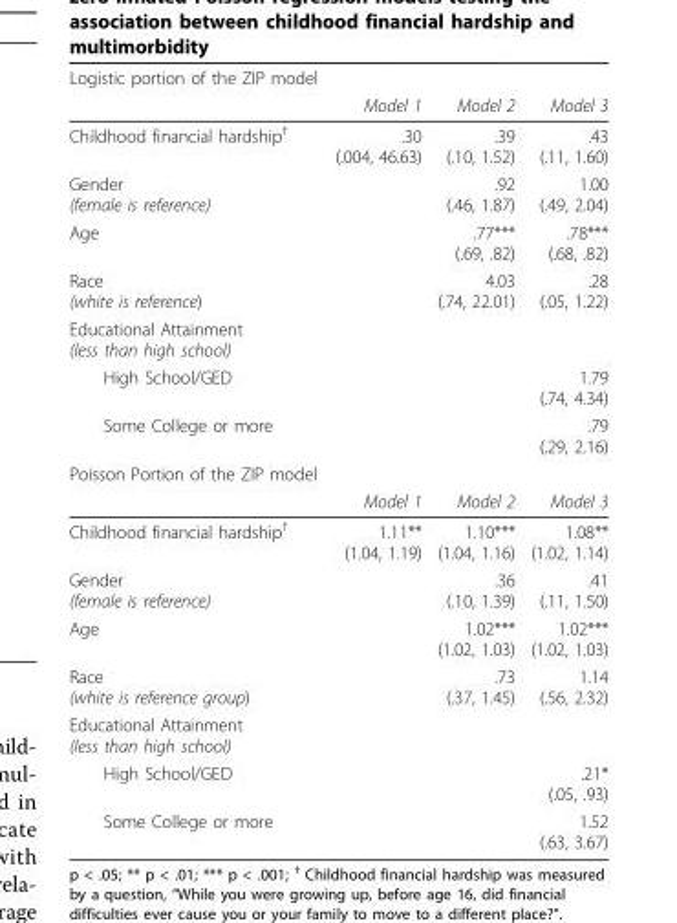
<table><thead><tr><td rowspan="2">Logistic portion of the ZIP model</td><td rowspan="2">Model 1</td><td rowspan="2">Model 2</td><td rowspan="2">Model 3</td></tr><tr></tr></thead><tbody><tr><td>Childhood financial hardship<sup>†</sup></td><td>.30 (.004, 46.63)</td><td>.39 (.10, 1.52)</td><td>.43 (.11, 1.60)</td></tr><tr><td>Gender (female is reference)</td><td></td><td>.92 (.46, 1.87)</td><td>1.00 (.49, 2.04)</td></tr><tr><td>Age</td><td></td><td>.77*** (.69, .82)</td><td>.78*** (.68, .82)</td></tr><tr><td>Race (white is reference)</td><td></td><td>4.03 (.74, 22.01)</td><td>.28 (.05, 1.22)</td></tr><tr><td colspan="4">Educational Attainment (less than high school)</td></tr><tr><td>High School/GED</td><td></td><td></td><td>1.79 (.74, 4.34)</td></tr><tr><td>Some College or more</td><td></td><td></td><td>.79 (.29, 2.16)</td></tr><tr><td colspan="4">Poisson Portion of the ZIP model</td></tr><tr><td></td><td>Model 1</td><td>Model 2</td><td>Model 3</td></tr><tr><td>Childhood financial hardship<sup>†</sup></td><td>1.11** (1.04, 1.19)</td><td>1.10*** (1.04, 1.16)</td><td>1.08** (1.02, 1.14)</td></tr><tr><td>Gender (female is reference)</td><td></td><td>.36 (.10, 1.39)</td><td>.41 (.11, 1.50)</td></tr><tr><td>Age</td><td></td><td>1.02*** (1.02, 1.03)</td><td>1.02*** (1.02, 1.03)</td></tr><tr><td>Race (white is reference group)</td><td></td><td>.73 (.37, 1.45)</td><td>1.14 (.56, 2.32)</td></tr><tr><td colspan="4">Educational Attainment (less than high school)</td></tr><tr><td>High School/GED</td><td></td><td></td><td>.21* (.05, .93)</td></tr><tr><td>Some College or more</td><td></td><td></td><td>1.52 (.63, 3.67)</td></tr></tbody></table>